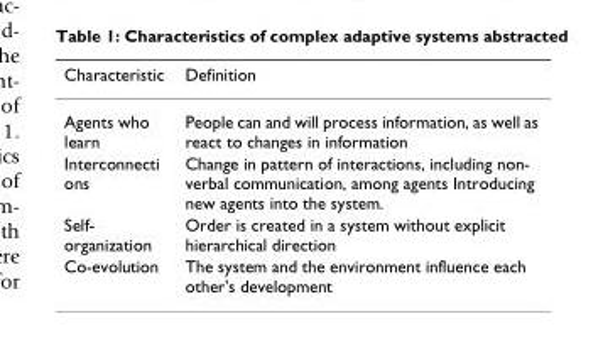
<table><thead><tr><td>Characteristic</td><td>Definition</td></tr></thead><tbody><tr><td>Agents who learn</td><td>People can and will process information, as well as react to changes in information</td></tr><tr><td>Interconnecti ons</td><td>Change in pattern of interactions, including non- verbal communication, among agents Introducing new agents into the system.</td></tr><tr><td>Self- organization</td><td>Order is created in a system without explicit hierarchical direction</td></tr><tr><td>Co-evolution</td><td>The system and the environment influence each other&#x27;s development</td></tr></tbody></table>